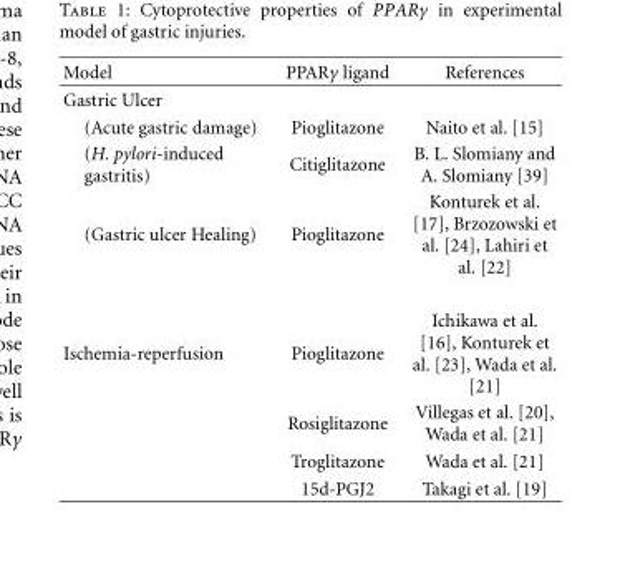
<table><thead><tr><td>Model</td><td>PPARγ ligand</td><td>References</td></tr></thead><tbody><tr><td colspan="3">Gastric Ulcer</td></tr><tr><td>(Acute gastric damage)</td><td>Pioglitazone</td><td>Naito et al. [15]</td></tr><tr><td>(H. pylori-induced gastritis)</td><td>Citiglitazone</td><td>B. L. Slomiany and A. Slomiany [39]</td></tr><tr><td>(Gastric ulcer Healing)</td><td>Pioglitazone</td><td>Konturek et al. [17], Brzozowski et al. [24], Lahiri et al. [22]</td></tr><tr><td rowspan="4">Ischemia-reperfusion</td><td>Pioglitazone</td><td>Ichikawa et al. [16], Konturek et al. [23], Wada et al. [21]</td></tr><tr><td>Rosiglitazone</td><td>Villegas et al. [20], Wada et al. [21]</td></tr><tr><td>Troglitazone</td><td>Wada et al. [21]</td></tr><tr><td>15d-PGJ2</td><td>Takagi et al. [19]</td></tr></tbody></table>